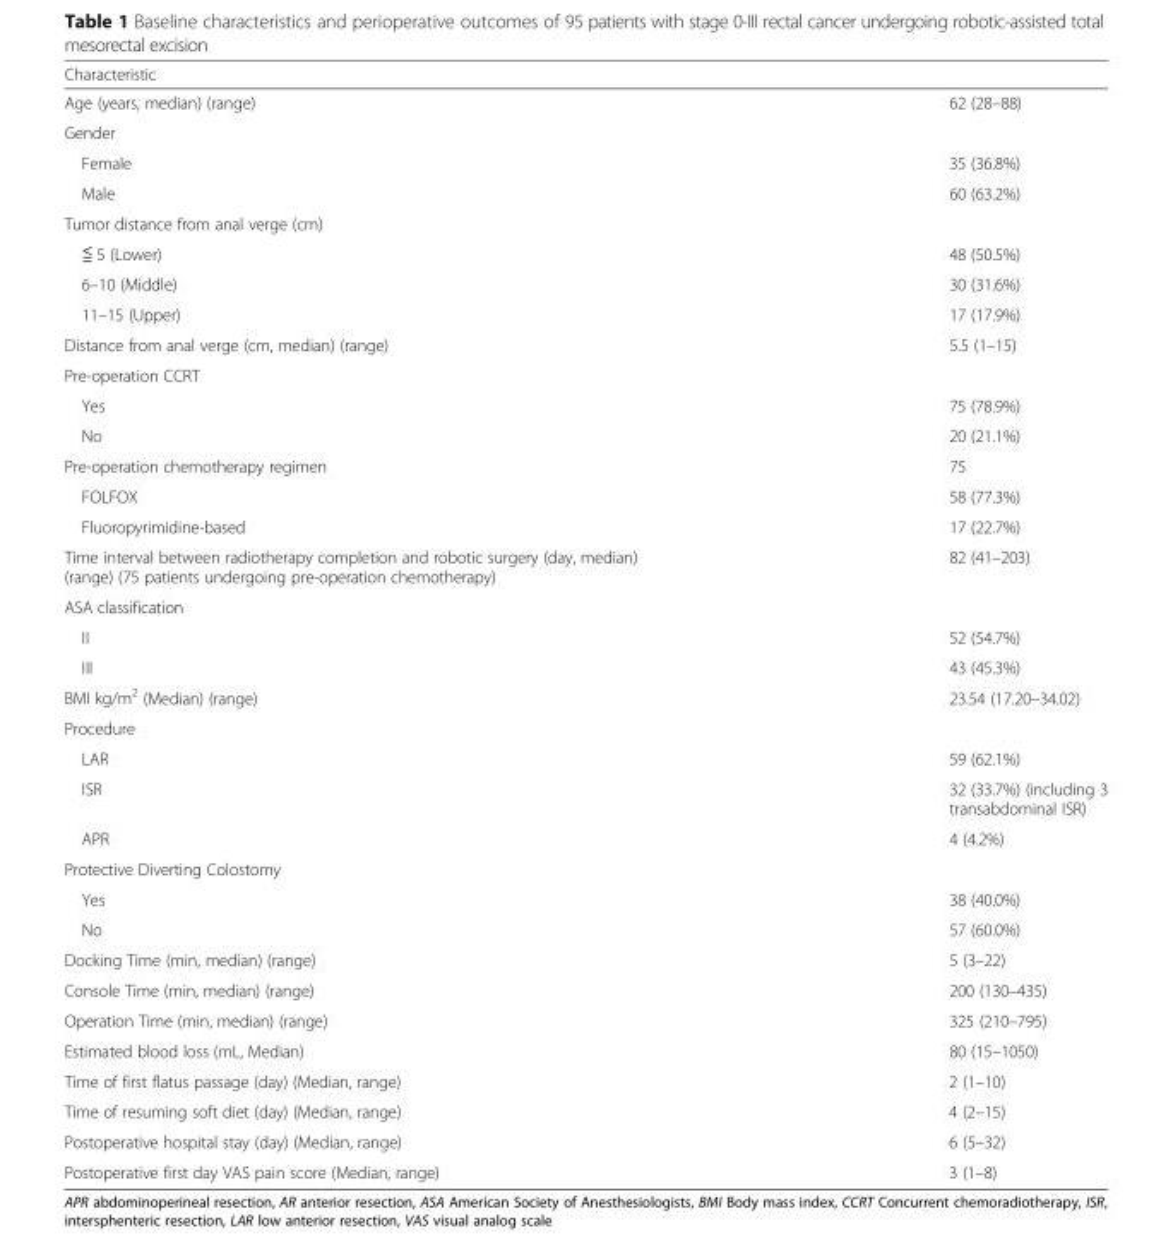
<table><thead><tr><td>Characteristic</td><td></td></tr></thead><tbody><tr><td>Age (years, median) (range)</td><td>62 (28–88)</td></tr><tr><td colspan="2">Gender</td></tr><tr><td>Female</td><td>35 (36.8%)</td></tr><tr><td>Male</td><td>60 (63.2%)</td></tr><tr><td colspan="2">Tumor distance from anal verge (cm)</td></tr><tr><td>≦ 5 (Lower)</td><td>48 (50.5%)</td></tr><tr><td>6–10 (Middle)</td><td>30 (31.6%)</td></tr><tr><td>11–15 (Upper)</td><td>17 (17.9%)</td></tr><tr><td>Distance from anal verge (cm, median) (range)</td><td>5.5 (1–15)</td></tr><tr><td colspan="2">Pre-operation CCRT</td></tr><tr><td>Yes</td><td>75 (78.9%)</td></tr><tr><td>No</td><td>20 (21.1%)</td></tr><tr><td>Pre-operation chemotherapy regimen</td><td>75</td></tr><tr><td>FOLFOX</td><td>58 (77.3%)</td></tr><tr><td>Fluoropyrimidine-based</td><td>17 (22.7%)</td></tr><tr><td>Time interval between radiotherapy completion and robotic surgery (day, median) (range) (75 patients undergoing pre-operation chemotherapy)</td><td>82 (41–203)</td></tr><tr><td colspan="2">ASA classification</td></tr><tr><td>II</td><td>52 (54.7%)</td></tr><tr><td>III</td><td>43 (45.3%)</td></tr><tr><td>BMI kg/m<sup>2</sup> (Median) (range)</td><td>23.54 (17.20–34.02)</td></tr><tr><td colspan="2">Procedure</td></tr><tr><td>LAR</td><td>59 (62.1%)</td></tr><tr><td>ISR</td><td>32 (33.7%) (including 3 transabdominal ISR)</td></tr><tr><td>APR</td><td>4 (4.2%)</td></tr><tr><td colspan="2">Protective Diverting Colostomy</td></tr><tr><td>Yes</td><td>38 (40.0%)</td></tr><tr><td>No</td><td>57 (60.0%)</td></tr><tr><td>Docking Time (min, median) (range)</td><td>5 (3–22)</td></tr><tr><td>Console Time (min, median) (range)</td><td>200 (130–435)</td></tr><tr><td>Operation Time (min, median) (range)</td><td>325 (210–795)</td></tr><tr><td>Estimated blood loss (mL, Median)</td><td>80 (15–1050)</td></tr><tr><td>Time of first flatus passage (day) (Median, range)</td><td>2 (1–10)</td></tr><tr><td>Time of resuming soft diet (day) (Median, range)</td><td>4 (2–15)</td></tr><tr><td>Postoperative hospital stay (day) (Median, range)</td><td>6 (5–32)</td></tr><tr><td>Postoperative first day VAS pain score (Median, range)</td><td>3 (1–8)</td></tr></tbody></table>